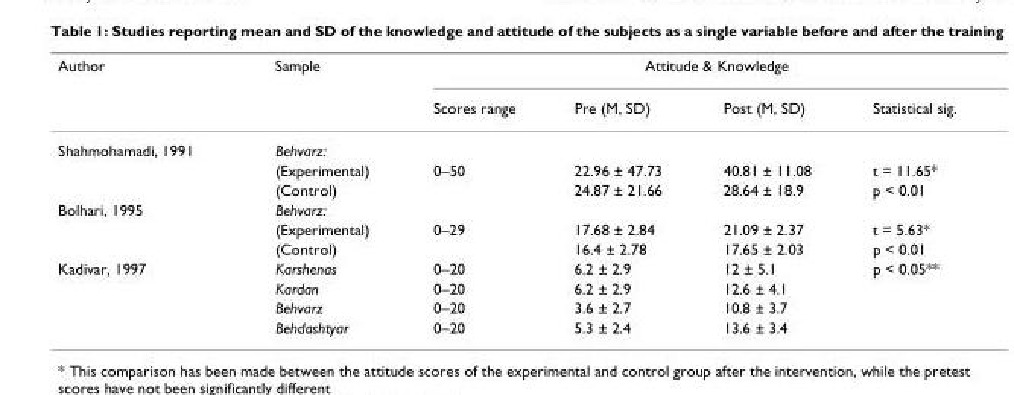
<table><thead><tr><td rowspan="2">Author</td><td rowspan="2">Sample</td><td colspan="4">Attitude &amp; Knowledge</td></tr><tr><td>Scores range</td><td>Pre (M, SD)</td><td>Post (M, SD)</td><td>Statistical sig.</td></tr></thead><tbody><tr><td rowspan="3">Shahmohamadi, 1991</td><td>Behvarz:</td><td></td><td></td><td></td><td></td></tr><tr><td>(Experimental)</td><td>0–50</td><td>22.96 ± 47.73</td><td>40.81 ± 11.08</td><td>t = 11.65*</td></tr><tr><td>(Control)</td><td></td><td>24.87 ± 21.66</td><td>28.64 ± 18.9</td><td>p &lt; 0.01</td></tr><tr><td rowspan="3">Bolhari, 1995</td><td>Behvarz:</td><td></td><td></td><td></td><td></td></tr><tr><td>(Experimental)</td><td>0–29</td><td>17.68 ± 2.84</td><td>21.09 ± 2.37</td><td>t = 5.63*</td></tr><tr><td>(Control)</td><td></td><td>16.4 ± 2.78</td><td>17.65 ± 2.03</td><td>p &lt; 0.01</td></tr><tr><td rowspan="4">Kadivar, 1997</td><td>Karshenas</td><td>0–20</td><td>6.2 ± 2.9</td><td>12 ± 5.1</td><td>p &lt; 0.05**</td></tr><tr><td>Kardan</td><td>0–20</td><td>6.2 ± 2.9</td><td>12.6 ± 4.1</td><td></td></tr><tr><td>Behvarz</td><td>0–20</td><td>3.6 ± 2.7</td><td>10.8 ± 3.7</td><td></td></tr><tr><td>Behdashtyar</td><td>0–20</td><td>5.3 ± 2.4</td><td>13.6 ± 3.4</td><td></td></tr></tbody></table>